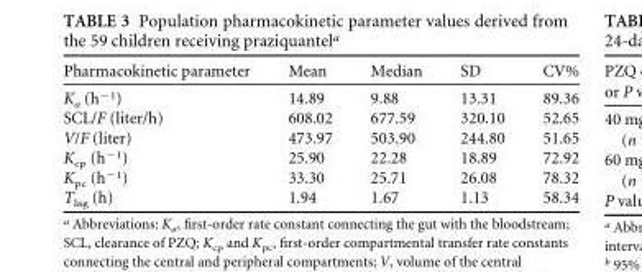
<table><thead><tr><td>Pharmacokinetic parameter</td><td>Mean</td><td>Median</td><td>SD</td><td>CV%</td></tr></thead><tbody><tr><td>K<sub>a</sub> (h<sup>−1</sup>)</td><td>14.89</td><td>9.88</td><td>13.31</td><td>89.36</td></tr><tr><td>SCL/F (liter/h)</td><td>608.02</td><td>677.59</td><td>320.10</td><td>52.65</td></tr><tr><td>V/F (liter)</td><td>473.97</td><td>503.90</td><td>244.80</td><td>51.65</td></tr><tr><td>K<sub>cp</sub> (h<sup>−1</sup>)</td><td>25.90</td><td>22.28</td><td>18.89</td><td>72.92</td></tr><tr><td>K<sub>pc</sub> (h<sup>−1</sup>)</td><td>33.30</td><td>25.71</td><td>26.08</td><td>78.32</td></tr><tr><td>T<sub>lag</sub> (h)</td><td>1.94</td><td>1.67</td><td>1.13</td><td>58.34</td></tr></tbody></table>